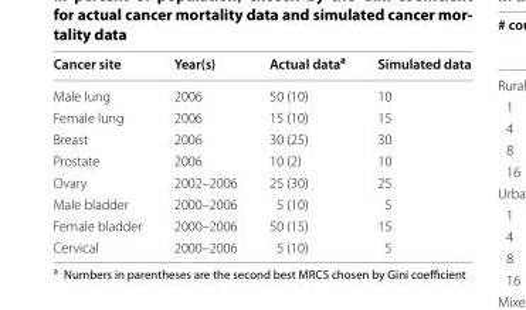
<table><thead><tr><td>Cancer site</td><td>Year(s)</td><td>Actual data<sup>a</sup></td><td>Simulated data</td></tr></thead><tbody><tr><td>Male lung</td><td>2006</td><td>50 (10)</td><td>10</td></tr><tr><td>Female lung</td><td>2006</td><td>15 (10)</td><td>15</td></tr><tr><td>Breast</td><td>2006</td><td>30 (25)</td><td>30</td></tr><tr><td>Prostate</td><td>2006</td><td>10 (2)</td><td>10</td></tr><tr><td>Ovary</td><td>2002–2006</td><td>25 (30)</td><td>25</td></tr><tr><td>Male bladder</td><td>2000–2006</td><td>5 (10)</td><td>5</td></tr><tr><td>Female bladder</td><td>2000–2006</td><td>50 (15)</td><td>15</td></tr><tr><td>Cervical</td><td>2000–2006</td><td>5 (10)</td><td>5</td></tr></tbody></table>